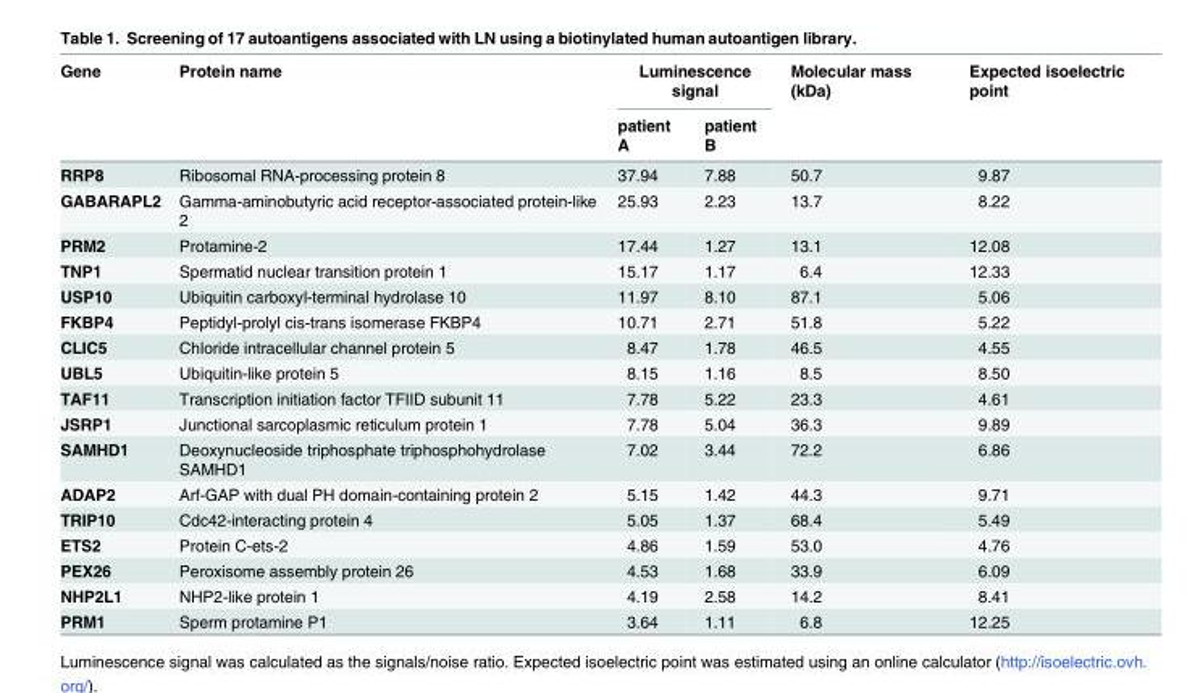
<table><thead><tr><td rowspan="2">Gene</td><td rowspan="2">Protein name</td><td colspan="2">Luminescence signal</td><td rowspan="2">Molecular mass (kDa)</td><td rowspan="2">Expected isoelectric point</td></tr><tr><td>patient A</td><td>patient B</td></tr></thead><tbody><tr><td>RRP8</td><td>Ribosomal RNA-processing protein 8</td><td>37.94</td><td>7.88</td><td>50.7</td><td>9.87</td></tr><tr><td>GABARAPL2</td><td>Gamma-aminobutyric acid receptor-associated protein-like 2</td><td>25.93</td><td>2.23</td><td>13.7</td><td>8.22</td></tr><tr><td>PRM2</td><td>Protamine-2</td><td>17.44</td><td>1.27</td><td>13.1</td><td>12.08</td></tr><tr><td>TNP1</td><td>Spermatid nuclear transition protein 1</td><td>15.17</td><td>1.17</td><td>6.4</td><td>12.33</td></tr><tr><td>USP10</td><td>Ubiquitin carboxyl-terminal hydrolase 10</td><td>11.97</td><td>8.10</td><td>87.1</td><td>5.06</td></tr><tr><td>FKBP4</td><td>Peptidyl-prolyl cis-trans isomerase FKBP4</td><td>10.71</td><td>2.71</td><td>51.8</td><td>5.22</td></tr><tr><td>CLIC5</td><td>Chloride intracellular channel protein 5</td><td>8.47</td><td>1.78</td><td>46.5</td><td>4.55</td></tr><tr><td>UBL5</td><td>Ubiquitin-like protein 5</td><td>8.15</td><td>1.16</td><td>8.5</td><td>8.50</td></tr><tr><td>TAF11</td><td>Transcription initiation factor TFIID subunit 11</td><td>7.78</td><td>5.22</td><td>23.3</td><td>4.61</td></tr><tr><td>JSRP1</td><td>Junctional sarcoplasmic reticulum protein 1</td><td>7.78</td><td>5.04</td><td>36.3</td><td>9.89</td></tr><tr><td>SAMHD1</td><td>Deoxynucleoside triphosphate triphosphohydrolase SAMHD1</td><td>7.02</td><td>3.44</td><td>72.2</td><td>6.86</td></tr><tr><td>ADAP2</td><td>Arf-GAP with dual PH domain-containing protein 2</td><td>5.15</td><td>1.42</td><td>44.3</td><td>9.71</td></tr><tr><td>TRIP10</td><td>Cdc42-interacting protein 4</td><td>5.05</td><td>1.37</td><td>68.4</td><td>5.49</td></tr><tr><td>ETS2</td><td>Protein C-ets-2</td><td>4.86</td><td>1.59</td><td>53.0</td><td>4.76</td></tr><tr><td>PEX26</td><td>Peroxisome assembly protein 26</td><td>4.53</td><td>1.68</td><td>33.9</td><td>6.09</td></tr><tr><td>NHP2L1</td><td>NHP2-like protein 1</td><td>4.19</td><td>2.58</td><td>14.2</td><td>8.41</td></tr><tr><td>PRM1</td><td>Sperm protamine P1</td><td>3.64</td><td>1.11</td><td>6.8</td><td>12.25</td></tr></tbody></table>